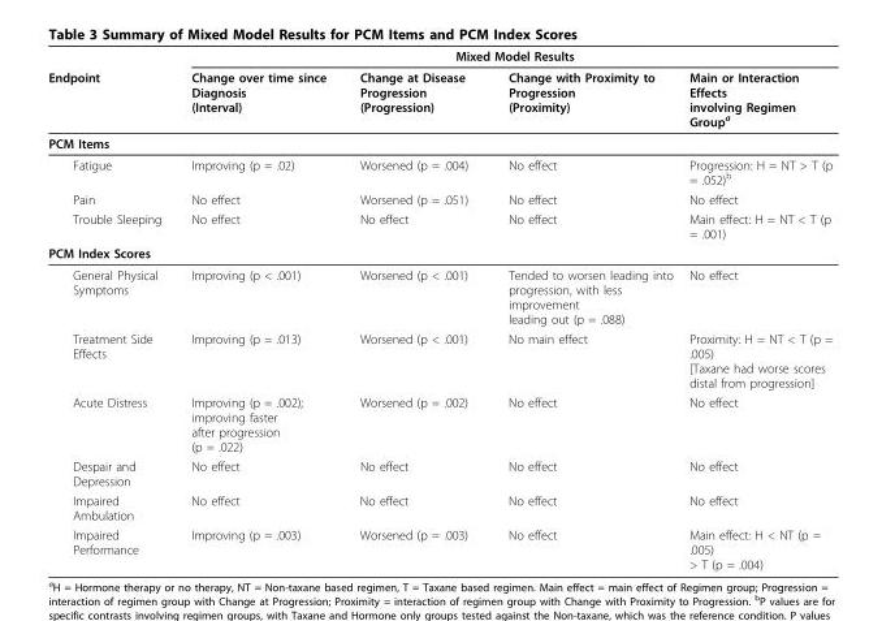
<table><thead><tr><td rowspan="2">Endpoint</td><td colspan="4">Mixed Model Results</td></tr><tr><td>Change over time since Diagnosis (Interval)</td><td>Change at Disease Progression (Progression)</td><td>Change with Proximity to Progression (Proximity)</td><td>Main or Interaction Effects involving Regimen Group<sup>a</sup></td></tr></thead><tbody><tr><td colspan="5">PCM Items</td></tr><tr><td>Fatigue</td><td>Improving (p = .02)</td><td>Worsened (p = .004)</td><td>No effect</td><td>Progression: H = NT &gt; T (p = .052)<sup>b</sup></td></tr><tr><td>Pain</td><td>No effect</td><td>Worsened (p = .051)</td><td>No effect</td><td>No effect</td></tr><tr><td>Trouble Sleeping</td><td>No effect</td><td>No effect</td><td>No effect</td><td>Main effect: H = NT &lt; T (p = .001)</td></tr><tr><td colspan="5">PCM Index Scores</td></tr><tr><td>General Physical Symptoms</td><td>Improving (p &lt; .001)</td><td>Worsened (p &lt; .001)</td><td>Tended to worsen leading into progression, with less improvement leading out (p = .088)</td><td>No effect</td></tr><tr><td>Treatment Side Effects</td><td>Improving (p = .013)</td><td>Worsened (p &lt; .001)</td><td>No main effect</td><td>Proximity: H = NT &lt; T (p = .005) [Taxane had worse scores distal from progression]</td></tr><tr><td>Acute Distress</td><td>Improving (p = .002); improving faster after progression (p = .022)</td><td>Worsened (p = .002)</td><td>No effect</td><td>No effect</td></tr><tr><td>Despair and Depression</td><td>No effect</td><td>No effect</td><td>No effect</td><td>No effect</td></tr><tr><td>Impaired Ambulation</td><td>No effect</td><td>No effect</td><td>No effect</td><td>No effect</td></tr><tr><td>Impaired Performance</td><td>Improving (p = .003)</td><td>Worsened (p = .003)</td><td>No effect</td><td>Main effect: H &lt; NT (p = .005) &gt; T (p = .004)</td></tr></tbody></table>